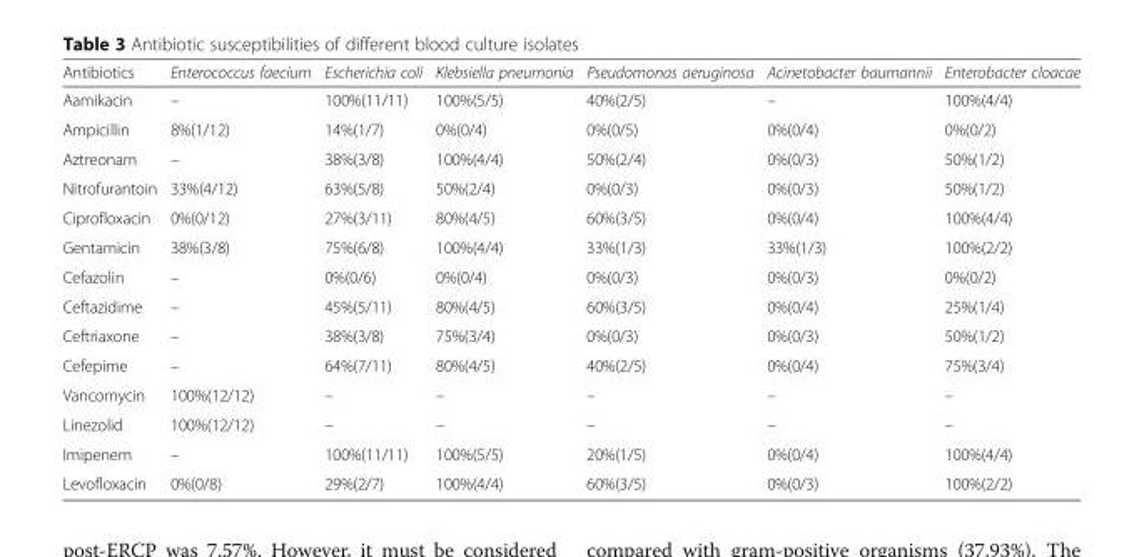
<table><thead><tr><td>Antibiotics</td><td>Enterococcus faecium</td><td>Escherichia coli</td><td>Klebsiella pneumonia</td><td>Pseudomonas aeruginosa</td><td>Acinetobacter baumannii</td><td>Enterobacter cloacae</td></tr></thead><tbody><tr><td>Aamikacin</td><td>–</td><td>100%(11/11)</td><td>100%(5/5)</td><td>40%(2/5)</td><td>–</td><td>100%(4/4)</td></tr><tr><td>Ampicillin</td><td>8%(1/12)</td><td>14%(1/7)</td><td>0%(0/4)</td><td>0%(0/5)</td><td>0%(0/4)</td><td>0%(0/2)</td></tr><tr><td>Aztreonam</td><td>–</td><td>38%(3/8)</td><td>100%(4/4)</td><td>50%(2/4)</td><td>0%(0/3)</td><td>50%(1/2)</td></tr><tr><td>Nitrofurantoin</td><td>33%(4/12)</td><td>63%(5/8)</td><td>50%(2/4)</td><td>0%(0/3)</td><td>0%(0/3)</td><td>50%(1/2)</td></tr><tr><td>Ciprofloxacin</td><td>0%(0/12)</td><td>27%(3/11)</td><td>80%(4/5)</td><td>60%(3/5)</td><td>0%(0/4)</td><td>100%(4/4)</td></tr><tr><td>Gentamicin</td><td>38%(3/8)</td><td>75%(6/8)</td><td>100%(4/4)</td><td>33%(1/3)</td><td>33%(1/3)</td><td>100%(2/2)</td></tr><tr><td>Cefazolin</td><td>–</td><td>0%(0/6)</td><td>0%(0/4)</td><td>0%(0/3)</td><td>0%(0/3)</td><td>0%(0/2)</td></tr><tr><td>Ceftazidime</td><td>–</td><td>45%(5/11)</td><td>80%(4/5)</td><td>60%(3/5)</td><td>0%(0/4)</td><td>25%(1/4)</td></tr><tr><td>Ceftriaxone</td><td>–</td><td>38%(3/8)</td><td>75%(3/4)</td><td>0%(0/3)</td><td>0%(0/3)</td><td>50%(1/2)</td></tr><tr><td>Cefepime</td><td>–</td><td>64%(7/11)</td><td>80%(4/5)</td><td>40%(2/5)</td><td>0%(0/4)</td><td>75%(3/4)</td></tr><tr><td>Vancomycin</td><td>100%(12/12)</td><td>–</td><td>–</td><td>–</td><td>–</td><td>–</td></tr><tr><td>Linezolid</td><td>100%(12/12)</td><td>–</td><td>–</td><td>–</td><td>–</td><td>–</td></tr><tr><td>Imipenem</td><td>–</td><td>100%(11/11)</td><td>100%(5/5)</td><td>20%(1/5)</td><td>0%(0/4)</td><td>100%(4/4)</td></tr><tr><td>Levofloxacin</td><td>0%(0/8)</td><td>29%(2/7)</td><td>100%(4/4)</td><td>60%(3/5)</td><td>0%(0/3)</td><td>100%(2/2)</td></tr></tbody></table>